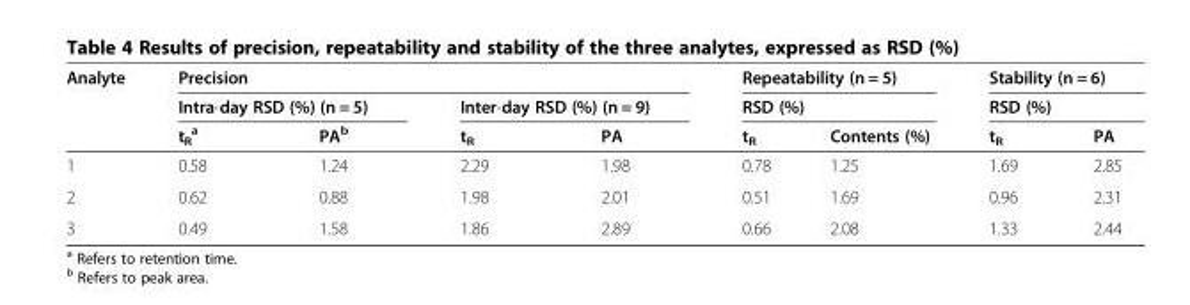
<table><thead><tr><td rowspan="3">Analyte</td><td colspan="4">Precision</td><td rowspan="2" colspan="2">Repeatability (n = 5) RSD (%)</td><td rowspan="2" colspan="2">Stability (n = 6) RSD (%)</td></tr><tr><td colspan="2">Intra-day RSD (%) (n = 5)</td><td colspan="2">Inter-day RSD (%) (n = 9)</td></tr><tr><td>t<sub>R</sub> <sup>a</sup></td><td>PA<sup>b</sup></td><td>t<sub>R</sub></td><td>PA</td><td>t<sub>R</sub></td><td>Contents (%)</td><td>t<sub>R</sub></td><td>PA</td></tr></thead><tbody><tr><td>1</td><td>0.58</td><td>1.24</td><td>2.29</td><td>1.98</td><td>0.78</td><td>1.25</td><td>1.69</td><td>2.85</td></tr><tr><td>2</td><td>0.62</td><td>0.88</td><td>1.98</td><td>2.01</td><td>0.51</td><td>1.69</td><td>0.96</td><td>2.31</td></tr><tr><td>3</td><td>0.49</td><td>1.58</td><td>1.86</td><td>2.89</td><td>0.66</td><td>2.08</td><td>1.33</td><td>2.44</td></tr></tbody></table>